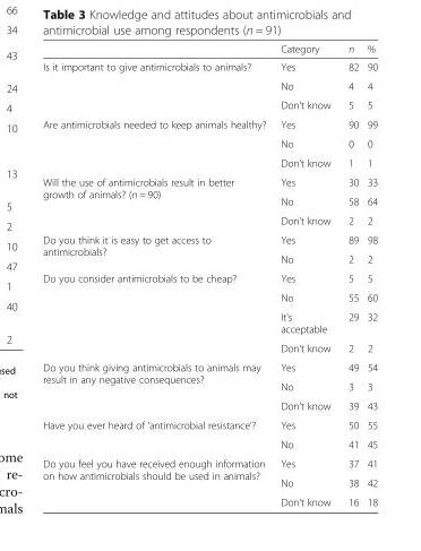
<table><thead><tr><td></td><td>Category</td><td>n</td><td>%</td></tr></thead><tbody><tr><td rowspan="3">Is it important to give antimicrobials to animals?</td><td>Yes</td><td>82</td><td>90</td></tr><tr><td>No</td><td>4</td><td>4</td></tr><tr><td>Don’t know</td><td>5</td><td>5</td></tr><tr><td rowspan="3">Are antimicrobials needed to keep animals healthy?</td><td>Yes</td><td>90</td><td>99</td></tr><tr><td>No</td><td>0</td><td>0</td></tr><tr><td>Don’t know</td><td>1</td><td>1</td></tr><tr><td rowspan="3">Will the use of antimicrobials result in better growth of animals? (n = 90)</td><td>Yes</td><td>30</td><td>33</td></tr><tr><td>No</td><td>58</td><td>64</td></tr><tr><td>Don’t know</td><td>2</td><td>2</td></tr><tr><td rowspan="2">Do you think it is easy to get access to antimicrobials?</td><td>Yes</td><td>89</td><td>98</td></tr><tr><td>No</td><td>2</td><td>2</td></tr><tr><td rowspan="4">Do you consider antimicrobials to be cheap?</td><td>Yes</td><td>5</td><td>5</td></tr><tr><td>No</td><td>55</td><td>60</td></tr><tr><td>It’s acceptable</td><td>29</td><td>32</td></tr><tr><td>Don’t know</td><td>2</td><td>2</td></tr><tr><td rowspan="3">Do you think giving antimicrobials to animals may result in any negative consequences?</td><td>Yes</td><td>49</td><td>54</td></tr><tr><td>No</td><td>3</td><td>3</td></tr><tr><td>Don’t know</td><td>39</td><td>43</td></tr><tr><td rowspan="2">Have you ever heard of ‘antimicrobial resistance’?</td><td>Yes</td><td>50</td><td>55</td></tr><tr><td>No</td><td>41</td><td>45</td></tr><tr><td rowspan="3">Do you feel you have received enough information on how antimicrobials should be used in animals?</td><td>Yes</td><td>37</td><td>41</td></tr><tr><td>No</td><td>38</td><td>42</td></tr><tr><td>Don’t know</td><td>16</td><td>18</td></tr></tbody></table>